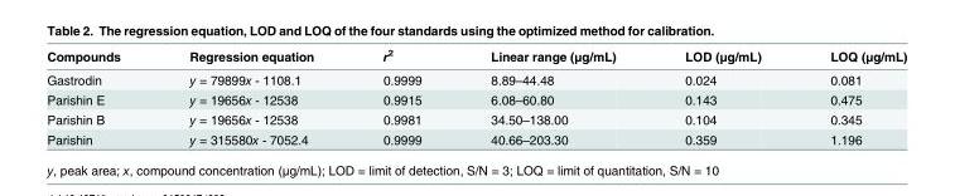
<table><thead><tr><td>Compounds</td><td>Regression equation</td><td>r<sup>2</sup></td><td>Linear range (μg/mL)</td><td>LOD (μg/mL)</td><td>LOQ (μg/mL)</td></tr></thead><tbody><tr><td>Gastrodin</td><td>y = 79899x - 1108.1</td><td>0.9999</td><td>8.89–44.48</td><td>0.024</td><td>0.081</td></tr><tr><td>Parishin E</td><td>y = 19656x - 12538</td><td>0.9915</td><td>6.08–60.80</td><td>0.143</td><td>0.475</td></tr><tr><td>Parishin B</td><td>y = 19656x - 12538</td><td>0.9981</td><td>34.50–138.00</td><td>0.104</td><td>0.345</td></tr><tr><td>Parishin</td><td>y = 315580x - 7052.4</td><td>0.9999</td><td>40.66–203.30</td><td>0.359</td><td>1.196</td></tr></tbody></table>